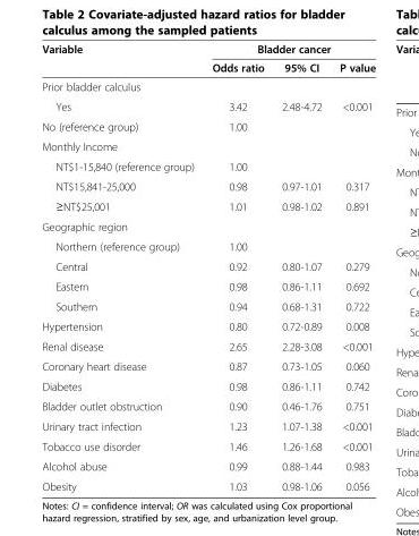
<table><thead><tr><td rowspan="2">Variable</td><td colspan="3">Bladder cancer</td></tr><tr><td>Odds ratio</td><td>95% CI</td><td>P value</td></tr></thead><tbody><tr><td colspan="4">Prior bladder calculus</td></tr><tr><td>Yes</td><td>3.42</td><td>2.48-4.72</td><td>&lt;0.001</td></tr><tr><td>No (reference group)</td><td>1.00</td><td></td><td></td></tr><tr><td colspan="4">Monthly Income</td></tr><tr><td>NT$1-15,840 (reference group)</td><td>1.00</td><td></td><td></td></tr><tr><td>NT$15,841-25,000</td><td>0.98</td><td>0.97-1.01</td><td>0.317</td></tr><tr><td>≥NT$25,001</td><td>1.01</td><td>0.98-1.02</td><td>0.891</td></tr><tr><td colspan="4">Geographic region</td></tr><tr><td>Northern (reference group)</td><td>1.00</td><td></td><td></td></tr><tr><td>Central</td><td>0.92</td><td>0.80-1.07</td><td>0.279</td></tr><tr><td>Eastern</td><td>0.98</td><td>0.86-1.11</td><td>0.692</td></tr><tr><td>Southern</td><td>0.94</td><td>0.68-1.31</td><td>0.722</td></tr><tr><td>Hypertension</td><td>0.80</td><td>0.72-0.89</td><td>0.008</td></tr><tr><td>Renal disease</td><td>2.65</td><td>2.28-3.08</td><td>&lt;0.001</td></tr><tr><td>Coronary heart disease</td><td>0.87</td><td>0.73-1.05</td><td>0.060</td></tr><tr><td>Diabetes</td><td>0.98</td><td>0.86-1.11</td><td>0.742</td></tr><tr><td>Bladder outlet obstruction</td><td>0.90</td><td>0.46-1.76</td><td>0.751</td></tr><tr><td>Urinary tract infection</td><td>1.23</td><td>1.07-1.38</td><td>&lt;0.001</td></tr><tr><td>Tobacco use disorder</td><td>1.46</td><td>1.26-1.68</td><td>&lt;0.001</td></tr><tr><td>Alcohol abuse</td><td>0.99</td><td>0.88-1.44</td><td>0.983</td></tr><tr><td>Obesity</td><td>1.03</td><td>0.98-1.06</td><td>0.056</td></tr></tbody></table>